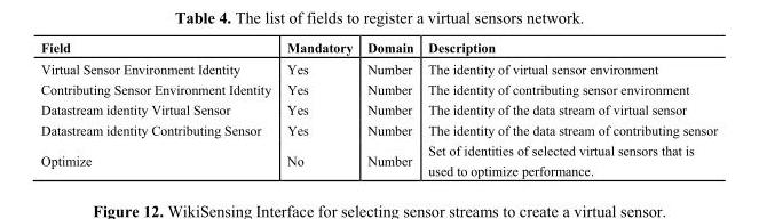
<table><thead><tr><td>Field</td><td>Mandatory</td><td>Domain</td><td>Description</td></tr></thead><tbody><tr><td>Virtual Sensor Environment Identity</td><td>Yes</td><td>Number</td><td>The identity of virtual sensor environment</td></tr><tr><td>Contributing Sensor Environment Identity</td><td>Yes</td><td>Number</td><td>The identity of contributing sensor environment</td></tr><tr><td>Datastream identity Virtual Sensor</td><td>Yes</td><td>Number</td><td>The identity of the data stream of virtual sensor</td></tr><tr><td>Datastream identity Contributing Sensor</td><td>Yes</td><td>Number</td><td>The identity of the data stream of contributing sensor</td></tr><tr><td>Optimize</td><td>No</td><td>Number</td><td>Set of identities of selected virtual sensors that is used to optimize performance.</td></tr></tbody></table>